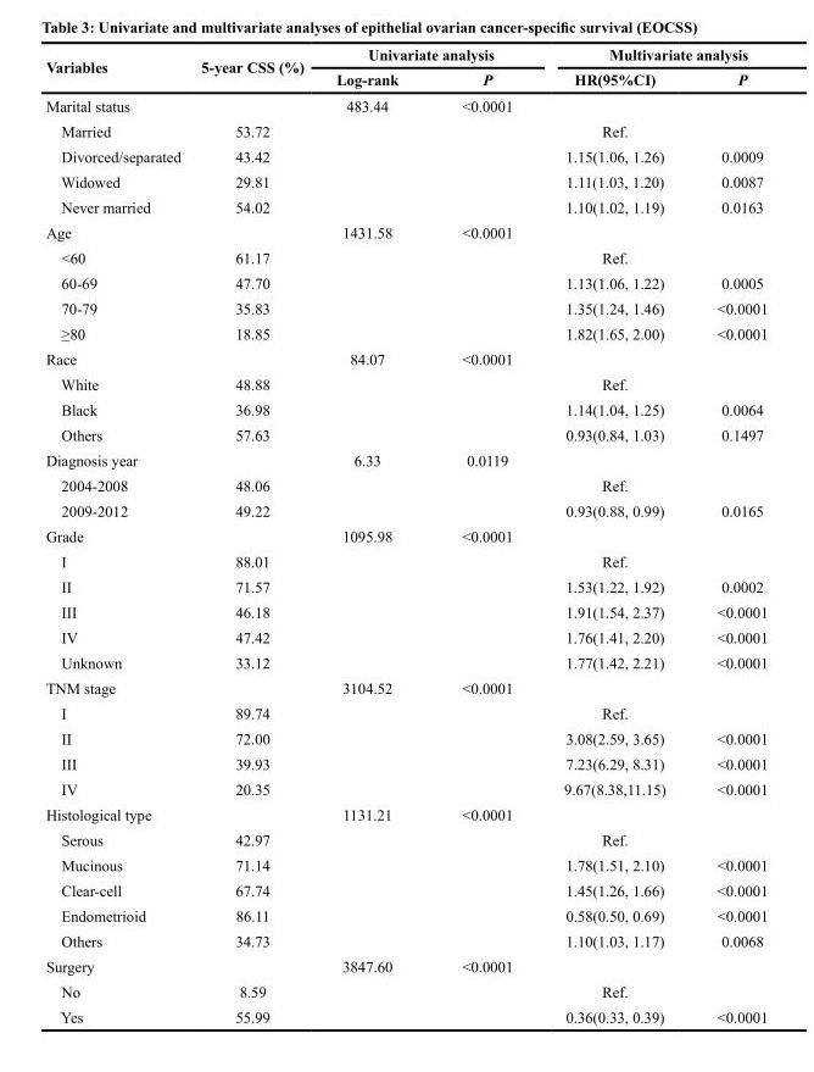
<table><thead><tr><td rowspan="2">Variables</td><td rowspan="2">5-year CSS (%)</td><td colspan="2">Univariate analysis</td><td colspan="2">Multivariate analysis</td></tr><tr><td>Log-rank</td><td>P</td><td>HR(95%CI)</td><td>P</td></tr></thead><tbody><tr><td>Marital status</td><td></td><td>483.44</td><td>&lt;0.0001</td><td></td><td></td></tr><tr><td>Married</td><td>53.72</td><td></td><td></td><td>Ref.</td><td></td></tr><tr><td>Divorced/separated</td><td>43.42</td><td></td><td></td><td>1.15(1.06, 1.26)</td><td>0.0009</td></tr><tr><td>Widowed</td><td>29.81</td><td></td><td></td><td>1.11(1.03, 1.20)</td><td>0.0087</td></tr><tr><td>Never married</td><td>54.02</td><td></td><td></td><td>1.10(1.02, 1.19)</td><td>0.0163</td></tr><tr><td>Age</td><td></td><td>1431.58</td><td>&lt;0.0001</td><td></td><td></td></tr><tr><td>&lt;60</td><td>61.17</td><td></td><td></td><td>Ref.</td><td></td></tr><tr><td>60-69</td><td>47.70</td><td></td><td></td><td>1.13(1.06, 1.22)</td><td>0.0005</td></tr><tr><td>70-79</td><td>35.83</td><td></td><td></td><td>1.35(1.24, 1.46)</td><td>&lt;0.0001</td></tr><tr><td>≥80</td><td>18.85</td><td></td><td></td><td>1.82(1.65, 2.00)</td><td>&lt;0.0001</td></tr><tr><td>Race</td><td></td><td>84.07</td><td>&lt;0.0001</td><td></td><td></td></tr><tr><td>White</td><td>48.88</td><td></td><td></td><td>Ref.</td><td></td></tr><tr><td>Black</td><td>36.98</td><td></td><td></td><td>1.14(1.04, 1.25)</td><td>0.0064</td></tr><tr><td>Others</td><td>57.63</td><td></td><td></td><td>0.93(0.84, 1.03)</td><td>0.1497</td></tr><tr><td>Diagnosis year</td><td></td><td>6.33</td><td>0.0119</td><td></td><td></td></tr><tr><td>2004-2008</td><td>48.06</td><td></td><td></td><td>Ref.</td><td></td></tr><tr><td>2009-2012</td><td>49.22</td><td></td><td></td><td>0.93(0.88, 0.99)</td><td>0.0165</td></tr><tr><td>Grade</td><td></td><td>1095.98</td><td>&lt;0.0001</td><td></td><td></td></tr><tr><td>I</td><td>88.01</td><td></td><td></td><td>Ref.</td><td></td></tr><tr><td>II</td><td>71.57</td><td></td><td></td><td>1.53(1.22, 1.92)</td><td>0.0002</td></tr><tr><td>III</td><td>46.18</td><td></td><td></td><td>1.91(1.54, 2.37)</td><td>&lt;0.0001</td></tr><tr><td>IV</td><td>47.42</td><td></td><td></td><td>1.76(1.41, 2.20)</td><td>&lt;0.0001</td></tr><tr><td>Unknown</td><td>33.12</td><td></td><td></td><td>1.77(1.42, 2.21)</td><td>&lt;0.0001</td></tr><tr><td>TNM stage</td><td></td><td>3104.52</td><td>&lt;0.0001</td><td></td><td></td></tr><tr><td>I</td><td>89.74</td><td></td><td></td><td>Ref.</td><td></td></tr><tr><td>II</td><td>72.00</td><td></td><td></td><td>3.08(2.59, 3.65)</td><td>&lt;0.0001</td></tr><tr><td>III</td><td>39.93</td><td></td><td></td><td>7.23(6.29, 8.31)</td><td>&lt;0.0001</td></tr><tr><td>IV</td><td>20.35</td><td></td><td></td><td>9.67(8.38,11.15)</td><td>&lt;0.0001</td></tr><tr><td>Histological type</td><td></td><td>1131.21</td><td>&lt;0.0001</td><td></td><td></td></tr><tr><td>Serous</td><td>42.97</td><td></td><td></td><td>Ref.</td><td></td></tr><tr><td>Mucinous</td><td>71.14</td><td></td><td></td><td>1.78(1.51, 2.10)</td><td>&lt;0.0001</td></tr><tr><td>Clear-cell</td><td>67.74</td><td></td><td></td><td>1.45(1.26, 1.66)</td><td>&lt;0.0001</td></tr><tr><td>Endometrioid</td><td>86.11</td><td></td><td></td><td>0.58(0.50, 0.69)</td><td>&lt;0.0001</td></tr><tr><td>Others</td><td>34.73</td><td></td><td></td><td>1.10(1.03, 1.17)</td><td>0.0068</td></tr><tr><td>Surgery</td><td></td><td>3847.60</td><td>&lt;0.0001</td><td></td><td></td></tr><tr><td>No</td><td>8.59</td><td></td><td></td><td>Ref.</td><td></td></tr><tr><td>Yes</td><td>55.99</td><td></td><td></td><td>0.36(0.33, 0.39)</td><td>&lt;0.0001</td></tr></tbody></table>